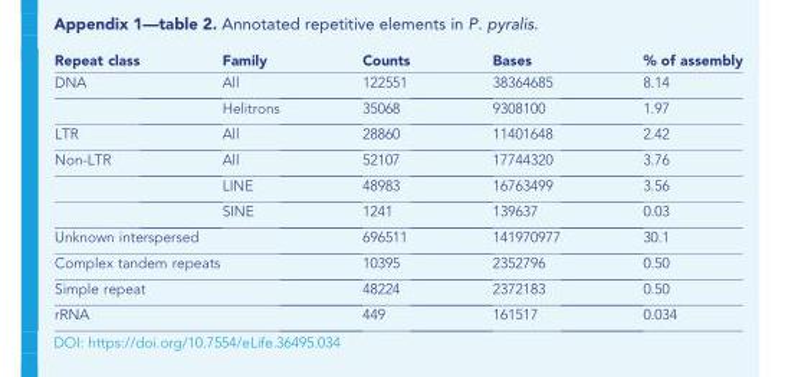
<table><thead><tr><td>Repeat class</td><td>Family</td><td>Counts</td><td>Bases</td><td>% of assembly</td></tr></thead><tbody><tr><td rowspan="2">DNA</td><td>All</td><td>122551</td><td>38364685</td><td>8.14</td></tr><tr><td>Helitrons</td><td>35068</td><td>9308100</td><td>1.97</td></tr><tr><td>LTR</td><td>All</td><td>28860</td><td>11401648</td><td>2.42</td></tr><tr><td rowspan="3">Non-LTR</td><td>All</td><td>52107</td><td>17744320</td><td>3.76</td></tr><tr><td>LINE</td><td>48983</td><td>16763499</td><td>3.56</td></tr><tr><td>SINE</td><td>1241</td><td>139637</td><td>0.03</td></tr><tr><td colspan="2">Unknown interspersed</td><td>696511</td><td>141970977</td><td>30.1</td></tr><tr><td colspan="2">Complex tandem repeats</td><td>10395</td><td>2352796</td><td>0.50</td></tr><tr><td colspan="2">Simple repeat</td><td>48224</td><td>2372183</td><td>0.50</td></tr><tr><td colspan="2">rRNA</td><td>449</td><td>161517</td><td>0.034</td></tr></tbody></table>